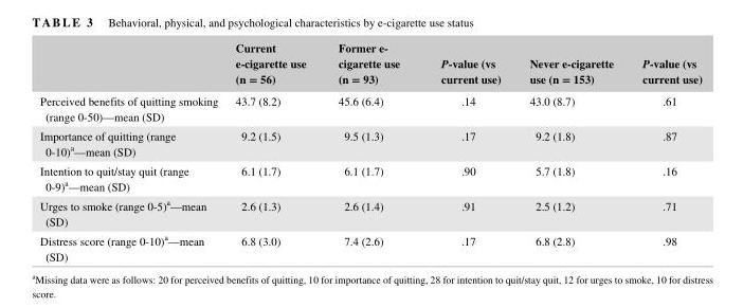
<table><thead><tr><td></td><td>Current e- cigarette use (n = 56)</td><td>Former e- cigarette use (n = 93)</td><td>P- value (vs current use)</td><td>Never e- cigarette use (n = 153)</td><td>P- value (vs current use)</td></tr></thead><tbody><tr><td>Perceived benefits of quitting smoking (range 0- 50)—mean (SD)</td><td>43.7 (8.2)</td><td>45.6 (6.4)</td><td>.14</td><td>43.0 (8.7)</td><td>.61</td></tr><tr><td>Importance of quitting (range 0- 10)<sup>a</sup>—mean (SD)</td><td>9.2 (1.5)</td><td>9.5 (1.3)</td><td>.17</td><td>9.2 (1.8)</td><td>.87</td></tr><tr><td>Intention to quit/stay quit (range 0- 9)<sup>a</sup>—mean (SD)</td><td>6.1 (1.7)</td><td>6.1 (1.7)</td><td>.90</td><td>5.7 (1.8)</td><td>.16</td></tr><tr><td>Urges to smoke (range 0- 5)<sup>a</sup>—mean (SD)</td><td>2.6 (1.3)</td><td>2.6 (1.4)</td><td>.91</td><td>2.5 (1.2)</td><td>.71</td></tr><tr><td>Distress score (range 0- 10)<sup>a</sup>—mean (SD)</td><td>6.8 (3.0)</td><td>7.4 (2.6)</td><td>.17</td><td>6.8 (2.8)</td><td>.98</td></tr></tbody></table>